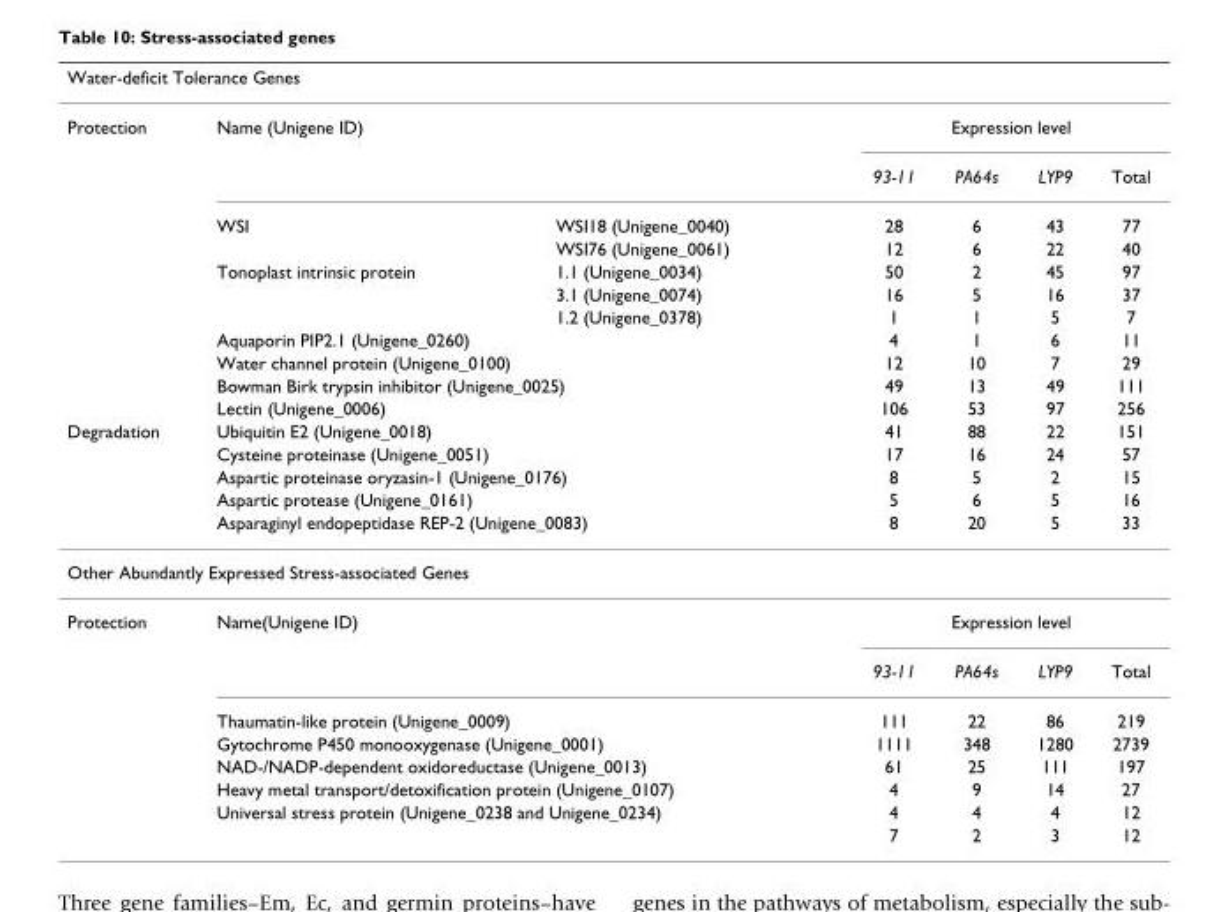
<table><thead><tr><td colspan="7">Water-deficit Tolerance Genes</td></tr><tr><td rowspan="2">Protection</td><td colspan="2">Name (Unigene ID)</td><td colspan="4">Expression level</td></tr><tr><td></td><td></td><td>93-11</td><td>PA64s</td><td>LYP9</td><td>Total</td></tr></thead><tbody><tr><td></td><td>WSI</td><td>WSI18 (Unigene_0040)</td><td>28</td><td>6</td><td>43</td><td>77</td></tr><tr><td></td><td></td><td>WSI76 (Unigene_0061)</td><td>12</td><td>6</td><td>22</td><td>40</td></tr><tr><td></td><td>Tonoplast intrinsic protein</td><td>1.1 (Unigene_0034)</td><td>50</td><td>2</td><td>45</td><td>97</td></tr><tr><td></td><td></td><td>3.1 (Unigene_0074)</td><td>16</td><td>5</td><td>16</td><td>37</td></tr><tr><td></td><td></td><td>1.2 (Unigene_0378)</td><td>1</td><td>1</td><td>5</td><td>7</td></tr><tr><td></td><td colspan="2">Aquaporin PIP2.1 (Unigene_0260)</td><td>4</td><td>1</td><td>6</td><td>11</td></tr><tr><td></td><td colspan="2">Water channel protein (Unigene_0100)</td><td>12</td><td>10</td><td>7</td><td>29</td></tr><tr><td></td><td colspan="2">Bowman Birk trypsin inhibitor (Unigene_0025)</td><td>49</td><td>13</td><td>49</td><td>111</td></tr><tr><td></td><td colspan="2">Lectin (Unigene_0006)</td><td>106</td><td>53</td><td>97</td><td>256</td></tr><tr><td rowspan="5">Degradation</td><td colspan="2">Ubiquitin E2 (Unigene_0018)</td><td>41</td><td>88</td><td>22</td><td>151</td></tr><tr><td colspan="2">Cysteine proteinase (Unigene_0051)</td><td>17</td><td>16</td><td>24</td><td>57</td></tr><tr><td colspan="2">Aspartic proteinase oryzasin-1 (Unigene_0176)</td><td>8</td><td>5</td><td>2</td><td>15</td></tr><tr><td colspan="2">Aspartic protease (Unigene_0161)</td><td>5</td><td>6</td><td>5</td><td>16</td></tr><tr><td colspan="2">Asparaginyl endopeptidase REP-2 (Unigene_0083)</td><td>8</td><td>20</td><td>5</td><td>33</td></tr><tr><td colspan="7">Other Abundantly Expressed Stress-associated Genes</td></tr><tr><td rowspan="8">Protection</td><td colspan="2">Name(Unigene ID)</td><td colspan="4">Expression level</td></tr><tr><td></td><td></td><td>93-11</td><td>PA64s</td><td>LYP9</td><td>Total</td></tr><tr><td colspan="2">Thaumatin-like protein (Unigene_0009)</td><td>111</td><td>22</td><td>86</td><td>219</td></tr><tr><td colspan="2">Gytochrome P450 monooxygenase (Unigene_0001)</td><td>1111</td><td>348</td><td>1280</td><td>2739</td></tr><tr><td colspan="2">NAD-/NADP-dependent oxidoreductase (Unigene_0013)</td><td>61</td><td>25</td><td>111</td><td>197</td></tr><tr><td colspan="2">Heavy metal transport/detoxification protein (Unigene_0107)</td><td>4</td><td>9</td><td>14</td><td>27</td></tr><tr><td colspan="2">Universal stress protein (Unigene_0238 and Unigene_0234)</td><td>4</td><td>4</td><td>4</td><td>12</td></tr><tr><td></td><td></td><td>7</td><td>2</td><td>3</td><td>12</td></tr></tbody></table>